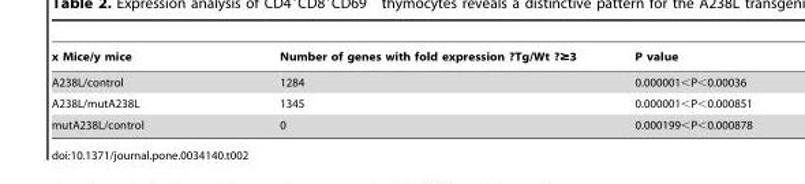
<table><thead><tr><td>x Mice/y mice</td><td>Number of genes with fold expression ?Tg/Wt ?≥3</td><td>P value</td></tr></thead><tbody><tr><td>A238L/control</td><td>1284</td><td>0.000001&lt;P&lt;0.00036</td></tr><tr><td>A238L/mutA238L</td><td>1345</td><td>0.000001&lt;P&lt;0.000851</td></tr><tr><td>mutA238L/control</td><td>0</td><td>0.000199&lt;P&lt;0.000878</td></tr></tbody></table>